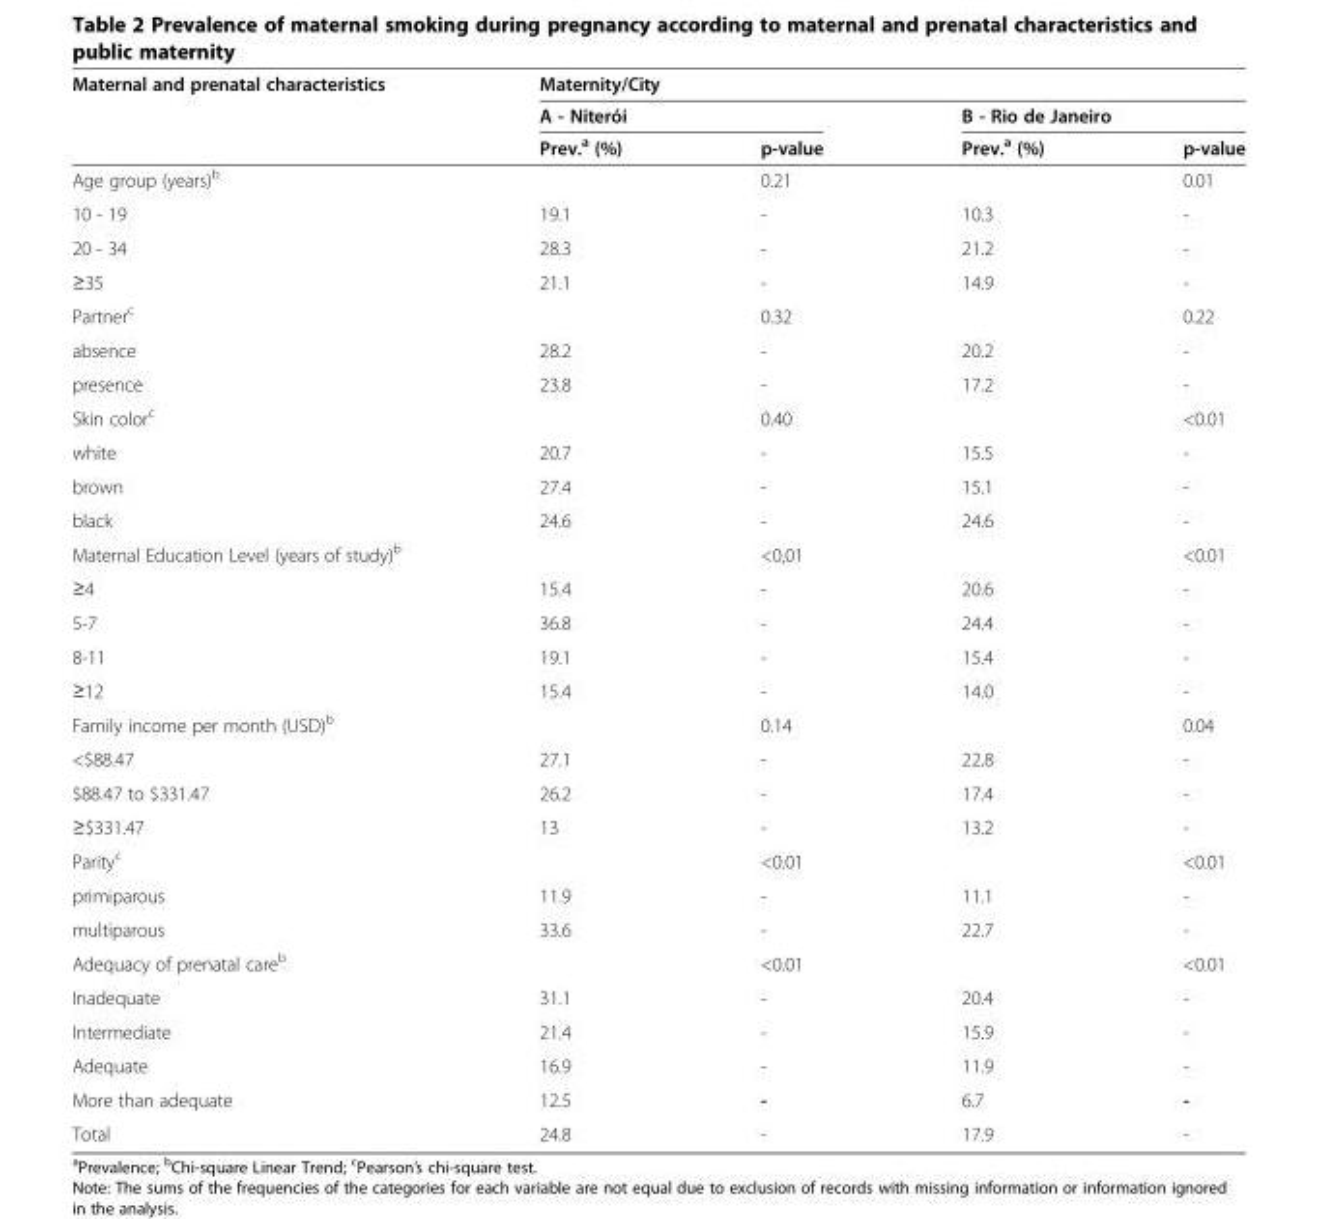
<table><thead><tr><td rowspan="3">Maternal and prenatal characteristics</td><td colspan="4">Maternity/City</td></tr><tr><td colspan="2">A - Niterói</td><td colspan="2">B - Rio de Janeiro</td></tr><tr><td>Prev.<sup>a</sup> (%)</td><td>p-value</td><td>Prev.<sup>a</sup> (%)</td><td>p-value</td></tr></thead><tbody><tr><td>Age group (years)<sup>b</sup></td><td></td><td>0.21</td><td></td><td>0.01</td></tr><tr><td>10 - 19</td><td>19.1</td><td>-</td><td>10.3</td><td>-</td></tr><tr><td>20 - 34</td><td>28.3</td><td>-</td><td>21.2</td><td>-</td></tr><tr><td>≥35</td><td>21.1</td><td>-</td><td>14.9</td><td>-</td></tr><tr><td>Partner<sup>c</sup></td><td></td><td>0.32</td><td></td><td>0.22</td></tr><tr><td>absence</td><td>28.2</td><td>-</td><td>20.2</td><td>-</td></tr><tr><td>presence</td><td>23.8</td><td>-</td><td>17.2</td><td>-</td></tr><tr><td>Skin color<sup>c</sup></td><td></td><td>0.40</td><td></td><td>&lt;0.01</td></tr><tr><td>white</td><td>20.7</td><td>-</td><td>15.5</td><td>-</td></tr><tr><td>brown</td><td>27.4</td><td>-</td><td>15.1</td><td>-</td></tr><tr><td>black</td><td>24.6</td><td>-</td><td>24.6</td><td>-</td></tr><tr><td>Maternal Education Level (years of study)<sup>b</sup></td><td></td><td>&lt;0,01</td><td></td><td>&lt;0.01</td></tr><tr><td>≥4</td><td>15.4</td><td>-</td><td>20.6</td><td>-</td></tr><tr><td>5-7</td><td>36.8</td><td>-</td><td>24.4</td><td>-</td></tr><tr><td>8-11</td><td>19.1</td><td>-</td><td>15.4</td><td>-</td></tr><tr><td>≥12</td><td>15.4</td><td>-</td><td>14.0</td><td>-</td></tr><tr><td>Family income per month (USD)<sup>b</sup></td><td></td><td>0.14</td><td></td><td>0.04</td></tr><tr><td>&lt;$88.47</td><td>27.1</td><td>-</td><td>22.8</td><td>-</td></tr><tr><td>$88.47 to $331.47</td><td>26.2</td><td>-</td><td>17.4</td><td>-</td></tr><tr><td>≥$331.47</td><td>13</td><td>-</td><td>13.2</td><td>-</td></tr><tr><td>Parity<sup>c</sup></td><td></td><td>&lt;0.01</td><td></td><td>&lt;0.01</td></tr><tr><td>primiparous</td><td>11.9</td><td>-</td><td>11.1</td><td>-</td></tr><tr><td>multiparous</td><td>33.6</td><td>-</td><td>22.7</td><td>-</td></tr><tr><td>Adequacy of prenatal care<sup>b</sup></td><td></td><td>&lt;0.01</td><td></td><td>&lt;0.01</td></tr><tr><td>Inadequate</td><td>31.1</td><td>-</td><td>20.4</td><td>-</td></tr><tr><td>Intermediate</td><td>21.4</td><td>-</td><td>15.9</td><td>-</td></tr><tr><td>Adequate</td><td>16.9</td><td>-</td><td>11.9</td><td>-</td></tr><tr><td>More than adequate</td><td>12.5</td><td>-</td><td>6.7</td><td>-</td></tr><tr><td>Total</td><td>24.8</td><td>-</td><td>17.9</td><td>-</td></tr></tbody></table>